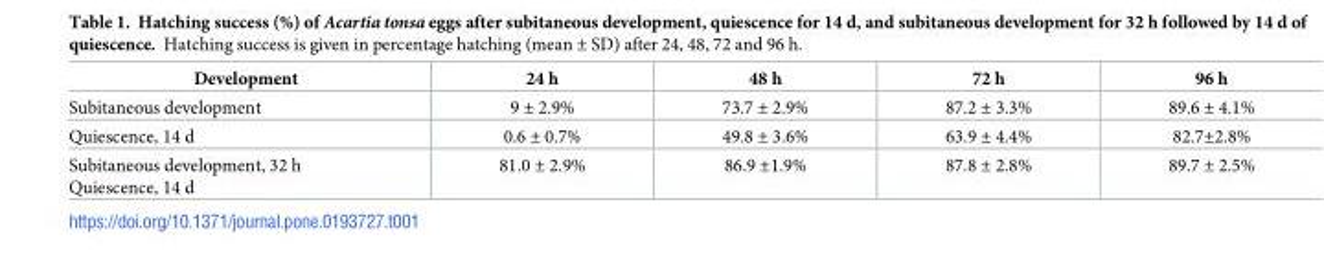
<table><thead><tr><td>Development</td><td>24 h</td><td>48 h</td><td>72 h</td><td>96 h</td></tr></thead><tbody><tr><td>Subitaneous development</td><td>9 ± 2.9%</td><td>73.7 ± 2.9%</td><td>87.2 ± 3.3%</td><td>89.6 ± 4.1%</td></tr><tr><td>Quiescence, 14 d</td><td>0.6 ± 0.7%</td><td>49.8 ± 3.6%</td><td>63.9 ± 4.4%</td><td>82.7±2.8%</td></tr><tr><td>Subitaneous development, 32 h Quiescence, 14 d</td><td>81.0 ± 2.9%</td><td>86.9 ±1.9%</td><td>87.8 ± 2.8%</td><td>89.7 ± 2.5%</td></tr></tbody></table>